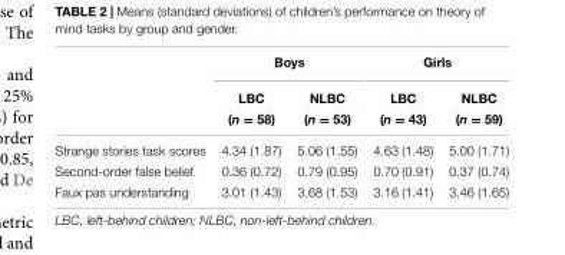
<table><thead><tr><td rowspan="3"></td><td colspan="2">Boys</td><td colspan="2">Girls</td></tr><tr><td rowspan="2">LBC (n = 58)</td><td rowspan="2">NLBC (n = 53)</td><td rowspan="2">LBC (n = 43)</td><td rowspan="2">NLBC (n = 59)</td></tr><tr></tr></thead><tbody><tr><td>Strange stories task scores</td><td>4.34 (1.87)</td><td>5.06 (1.55)</td><td>4.63 (1.48)</td><td>5.00 (1.71)</td></tr><tr><td>Second-order false belief</td><td>0.36 (0.72)</td><td>0.79 (0.95)</td><td>0.70 (0.91)</td><td>0.37 (0.74)</td></tr><tr><td>Faux pas understanding</td><td>3.01 (1.43)</td><td>3.68 (1.53)</td><td>3.16 (1.41)</td><td>3.46 (1.65)</td></tr></tbody></table>